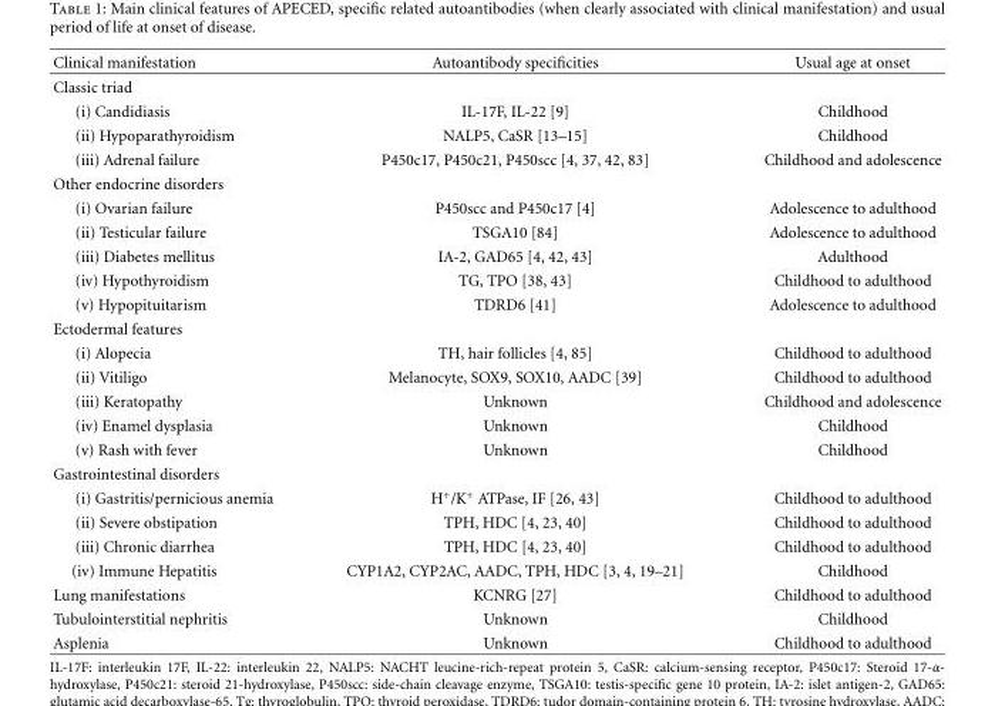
<table><thead><tr><td>Clinical manifestation</td><td>Autoantibody specificities</td><td>Usual age at onset</td></tr></thead><tbody><tr><td colspan="3">Classic triad</td></tr><tr><td>(i) Candidiasis</td><td>IL-17F, IL-22 [9]</td><td>Childhood</td></tr><tr><td>(ii) Hypoparathyroidism</td><td>NALP5, CaSR [13–15]</td><td>Childhood</td></tr><tr><td>(iii) Adrenal failure</td><td>P450c17, P450c21, P450scc [4, 37, 42, 83]</td><td>Childhood and adolescence</td></tr><tr><td colspan="3">Other endocrine disorders</td></tr><tr><td>(i) Ovarian failure</td><td>P450scc and P450c17 [4]</td><td>Adolescence to adulthood</td></tr><tr><td>(ii) Testicular failure</td><td>TSGA10 [84]</td><td>Adolescence to adulthood</td></tr><tr><td>(iii) Diabetes mellitus</td><td>IA-2, GAD65 [4, 42, 43]</td><td>Adulthood</td></tr><tr><td>(iv) Hypothyroidism</td><td>TG, TPO [38, 43]</td><td>Childhood to adulthood</td></tr><tr><td>(v) Hypopituitarism</td><td>TDRD6 [41]</td><td>Adolescence to adulthood</td></tr><tr><td colspan="3">Ectodermal features</td></tr><tr><td>(i) Alopecia</td><td>TH, hair follicles [4, 85]</td><td>Childhood to adulthood</td></tr><tr><td>(ii) Vitiligo</td><td>Melanocyte, SOX9, SOX10, AADC [39]</td><td>Childhood to adulthood</td></tr><tr><td>(iii) Keratopathy</td><td>Unknown</td><td>Childhood and adolescence</td></tr><tr><td>(iv) Enamel dysplasia</td><td>Unknown</td><td>Childhood</td></tr><tr><td>(v) Rash with fever</td><td>Unknown</td><td>Childhood</td></tr><tr><td colspan="3">Gastrointestinal disorders</td></tr><tr><td>(i) Gastritis/pernicious anemia</td><td>H<sup>+</sup>/K<sup>+</sup> ATPase, IF [26, 43]</td><td>Childhood to adulthood</td></tr><tr><td>(ii) Severe obstipation</td><td>TPH, HDC [4, 23, 40]</td><td>Childhood to adulthood</td></tr><tr><td>(iii) Chronic diarrhea</td><td>TPH, HDC [4, 23, 40]</td><td>Childhood to adulthood</td></tr><tr><td>(iv) Immune Hepatitis</td><td>CYP1A2, CYP2AC, AADC, TPH, HDC [3, 4, 19–21]</td><td>Childhood</td></tr><tr><td>Lung manifestations</td><td>KCNRG [27]</td><td>Childhood to adulthood</td></tr><tr><td>Tubulointerstitial nephritis</td><td>Unknown</td><td>Childhood</td></tr><tr><td>Asplenia</td><td>Unknown</td><td>Childhood to adulthood</td></tr></tbody></table>